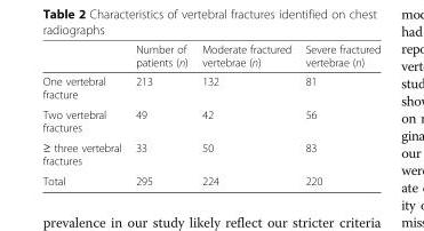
<table><thead><tr><td></td><td>Number of patients (n)</td><td>Moderate fractured vertebrae (n)</td><td>Severe fractured vertebrae (n)</td></tr></thead><tbody><tr><td>One vertebral fracture</td><td>213</td><td>132</td><td>81</td></tr><tr><td>Two vertebral fractures</td><td>49</td><td>42</td><td>56</td></tr><tr><td>≥ three vertebral fractures</td><td>33</td><td>50</td><td>83</td></tr><tr><td>Total</td><td>295</td><td>224</td><td>220</td></tr></tbody></table>